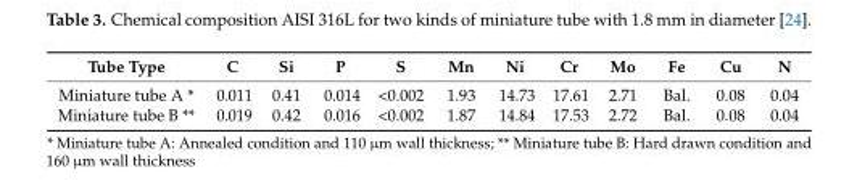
<table><thead><tr><td>Tube Type</td><td>C</td><td>Si</td><td>P</td><td>S</td><td>Mn</td><td>Ni</td><td>Cr</td><td>Mo</td><td>Fe</td><td>Cu</td><td>N</td></tr></thead><tbody><tr><td>Miniature tube A *</td><td>0.011</td><td>0.41</td><td>0.014</td><td>&lt;0.002</td><td>1.93</td><td>14.73</td><td>17.61</td><td>2.71</td><td>Bal.</td><td>0.08</td><td>0.04</td></tr><tr><td>Miniature tube B **</td><td>0.019</td><td>0.42</td><td>0.016</td><td>&lt;0.002</td><td>1.87</td><td>14.84</td><td>17.53</td><td>2.72</td><td>Bal.</td><td>0.08</td><td>0.04</td></tr></tbody></table>